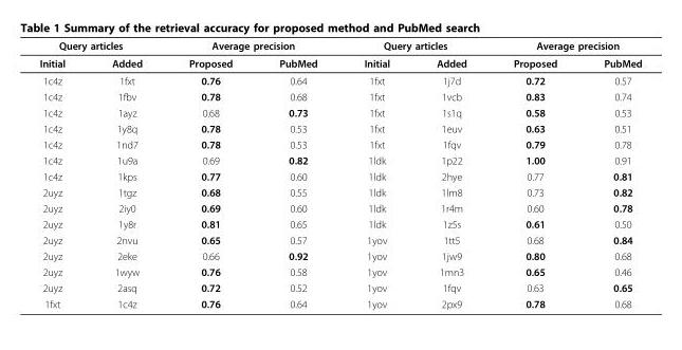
<table><thead><tr><td colspan="2">Query articles</td><td colspan="2">Average precision</td><td colspan="2">Query articles</td><td colspan="2">Average precision</td></tr><tr><td>Initial</td><td>Added</td><td>Proposed</td><td>PubMed</td><td>Initial</td><td>Added</td><td>Proposed</td><td>PubMed</td></tr></thead><tbody><tr><td>1c4z</td><td>1fxt</td><td>0.76</td><td>0.64</td><td>1fxt</td><td>1j7d</td><td>0.72</td><td>0.57</td></tr><tr><td>1c4z</td><td>1fbv</td><td>0.78</td><td>0.68</td><td>1fxt</td><td>1vcb</td><td>0.83</td><td>0.74</td></tr><tr><td>1c4z</td><td>1ayz</td><td>0.68</td><td>0.73</td><td>1fxt</td><td>1s1q</td><td>0.58</td><td>0.53</td></tr><tr><td>1c4z</td><td>1y8q</td><td>0.78</td><td>0.53</td><td>1fxt</td><td>1euv</td><td>0.63</td><td>0.51</td></tr><tr><td>1c4z</td><td>1nd7</td><td>0.78</td><td>0.53</td><td>1fxt</td><td>1fqv</td><td>0.79</td><td>0.78</td></tr><tr><td>1c4z</td><td>1u9a</td><td>0.69</td><td>0.82</td><td>1ldk</td><td>1p22</td><td>1.00</td><td>0.91</td></tr><tr><td>1c4z</td><td>1kps</td><td>0.77</td><td>0.60</td><td>1ldk</td><td>2hye</td><td>0.77</td><td>0.81</td></tr><tr><td>2uyz</td><td>1tgz</td><td>0.68</td><td>0.55</td><td>1ldk</td><td>1lm8</td><td>0.73</td><td>0.82</td></tr><tr><td>2uyz</td><td>2iy0</td><td>0.69</td><td>0.60</td><td>1ldk</td><td>1r4m</td><td>0.60</td><td>0.78</td></tr><tr><td>2uyz</td><td>1y8r</td><td>0.81</td><td>0.65</td><td>1ldk</td><td>1z5s</td><td>0.61</td><td>0.50</td></tr><tr><td>2uyz</td><td>2nvu</td><td>0.65</td><td>0.57</td><td>1yov</td><td>1tt5</td><td>0.68</td><td>0.84</td></tr><tr><td>2uyz</td><td>2eke</td><td>0.66</td><td>0.92</td><td>1yov</td><td>1jw9</td><td>0.80</td><td>0.68</td></tr><tr><td>2uyz</td><td>1wyw</td><td>0.76</td><td>0.58</td><td>1yov</td><td>1mn3</td><td>0.65</td><td>0.46</td></tr><tr><td>2uyz</td><td>2asq</td><td>0.72</td><td>0.52</td><td>1yov</td><td>1fqv</td><td>0.63</td><td>0.65</td></tr><tr><td>1fxt</td><td>1c4z</td><td>0.76</td><td>0.64</td><td>1yov</td><td>2px9</td><td>0.78</td><td>0.68</td></tr></tbody></table>